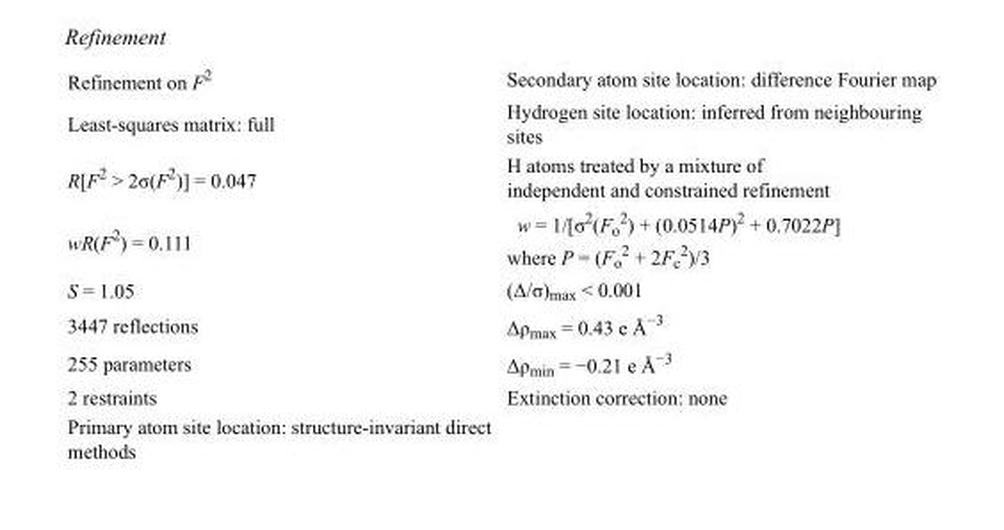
<table><tbody><tr><td>Refinement on F<sup>2</sup></td><td>Secondary atom site location: difference Fourier map</td></tr><tr><td>Least-squares matrix: full</td><td>Hydrogen site location: inferred from neighbouring sites</td></tr><tr><td>R[F<sup>2</sup> &gt; 2σ(F<sup>2</sup>)] = 0.047</td><td>H atoms treated by a mixture of independent and constrained refinement</td></tr><tr><td>wR(F<sup>2</sup>) = 0.111</td><td>w = 1/[σ<sup>2</sup>(F<sub>o</sub> <sup>2</sup>) + (0.0514P)<sup>2</sup> + 0.7022P] where P = (F<sub>o</sub> <sup>2</sup> + 2F<sub>c</sub> <sup>2</sup>)/3</td></tr><tr><td>S = 1.05</td><td>(Δ/σ)<sub>max</sub> &lt; 0.001</td></tr><tr><td>3447 reflections</td><td>Δρ<sub>max</sub> = 0.43 e Å<sup>−3</sup></td></tr><tr><td>255 parameters</td><td>Δρ<sub>min</sub> = −0.21 e Å<sup>−3</sup></td></tr><tr><td>2 restraints</td><td>Extinction correction: none</td></tr><tr><td>Primary atom site location: structure-invariant direct methods</td><td></td></tr></tbody></table>